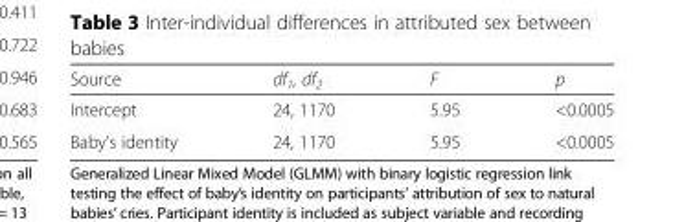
<table><thead><tr><td>Source</td><td>df<sub>1</sub>, df<sub>2</sub></td><td>F</td><td>p</td></tr></thead><tbody><tr><td>Intercept</td><td>24, 1170</td><td>5.95</td><td>&lt;0.0005</td></tr><tr><td>Baby’s identity</td><td>24, 1170</td><td>5.95</td><td>&lt;0.0005</td></tr></tbody></table>